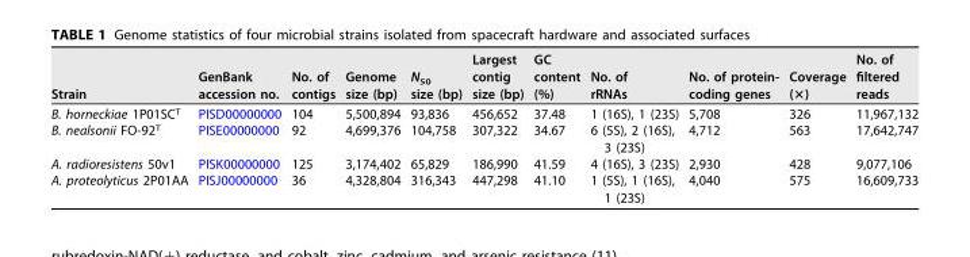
<table><thead><tr><td>Strain</td><td>GenBank accession no.</td><td>No. of contigs</td><td>Genome size (bp)</td><td>N<sub>50</sub> size (bp)</td><td>Largest contig size (bp)</td><td>GC content (%)</td><td>No. of rRNAs</td><td>No. of protein- coding genes</td><td>Coverage (×)</td><td>No. of filtered reads</td></tr></thead><tbody><tr><td>B. horneckiae 1P01SC<sup>T</sup></td><td>PISD00000000</td><td>104</td><td>5,500,894</td><td>93,836</td><td>456,652</td><td>37.48</td><td>1 (16S), 1 (23S)</td><td>5,708</td><td>326</td><td>11,967,132</td></tr><tr><td>B. nealsonii FO-92<sup>T</sup></td><td>PISE00000000</td><td>92</td><td>4,699,376</td><td>104,758</td><td>307,322</td><td>34.67</td><td>6 (5S), 2 (16S), 3 (23S)</td><td>4,712</td><td>563</td><td>17,642,747</td></tr><tr><td>A. radioresistens 50v1</td><td>PISK00000000</td><td>125</td><td>3,174,402</td><td>65,829</td><td>186,990</td><td>41.59</td><td>4 (16S), 3 (23S)</td><td>2,930</td><td>428</td><td>9,077,106</td></tr><tr><td>A. proteolyticus 2P01AA</td><td>PISJ00000000</td><td>36</td><td>4,328,804</td><td>316,343</td><td>447,298</td><td>41.10</td><td>1 (5S), 1 (16S), 1 (23S)</td><td>4,040</td><td>575</td><td>16,609,733</td></tr></tbody></table>